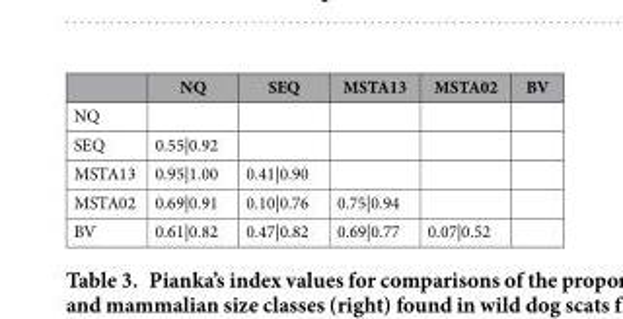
<table><thead><tr><td></td><td>NQ</td><td>SEQ</td><td>MSTA13</td><td>MSTA02</td><td>BV</td></tr></thead><tbody><tr><td colspan="6">NQ</td></tr><tr><td>SEQ</td><td>0.55|0.92</td><td></td><td></td><td></td><td></td></tr><tr><td>MSTA13</td><td>0.95|1.00</td><td>0.41|0.90</td><td></td><td></td><td></td></tr><tr><td>MSTA02</td><td>0.69|0.91</td><td>0.10|0.76</td><td>0.75|0.94</td><td></td><td></td></tr><tr><td>BV</td><td>0.61|0.82</td><td>0.47|0.82</td><td>0.69|0.77</td><td>0.07|0.52</td><td></td></tr></tbody></table>